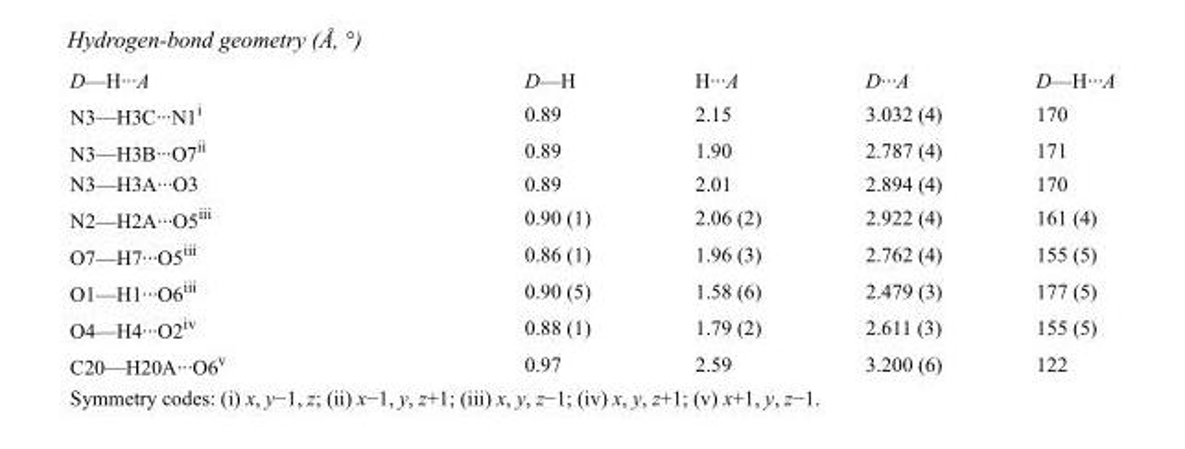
<table><tbody><tr><td>D—H···A</td><td>D—H</td><td>H···A</td><td>D···A</td><td>D—H···A</td></tr><tr><td>N3—H3C···N1<sup>i</sup></td><td>0.89</td><td>2.15</td><td>3.032 (4)</td><td>170</td></tr><tr><td>N3—H3B···O7<sup>ii</sup></td><td>0.89</td><td>1.90</td><td>2.787 (4)</td><td>171</td></tr><tr><td>N3—H3A···O3</td><td>0.89</td><td>2.01</td><td>2.894 (4)</td><td>170</td></tr><tr><td>N2—H2A···O5<sup>iii</sup></td><td>0.90 (1)</td><td>2.06 (2)</td><td>2.922 (4)</td><td>161 (4)</td></tr><tr><td>O7—H7···O5<sup>iii</sup></td><td>0.86 (1)</td><td>1.96 (3)</td><td>2.762 (4)</td><td>155 (5)</td></tr><tr><td>O1—H1···O6<sup>iii</sup></td><td>0.90 (5)</td><td>1.58 (6)</td><td>2.479 (3)</td><td>177 (5)</td></tr><tr><td>O4—H4···O2<sup>iv</sup></td><td>0.88 (1)</td><td>1.79 (2)</td><td>2.611 (3)</td><td>155 (5)</td></tr><tr><td>C20—H20A···O6<sup>v</sup></td><td>0.97</td><td>2.59</td><td>3.200 (6)</td><td>122</td></tr></tbody></table>